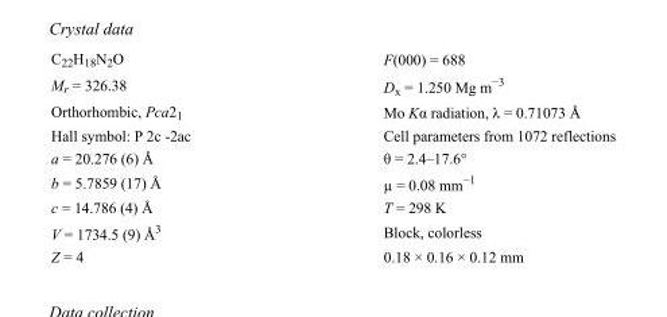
<table><tbody><tr><td>C<sub>22</sub>H<sub>18</sub>N<sub>2</sub>O</td><td>F(000) = 688</td></tr><tr><td>M<sub>r</sub> = 326.38</td><td>D<sub>x</sub> = 1.250 Mg m<sup>−3</sup></td></tr><tr><td>Orthorhombic, Pca2<sub>1</sub></td><td>Mo Kα radiation, λ = 0.71073 Å</td></tr><tr><td>Hall symbol: P 2c -2ac</td><td>Cell parameters from 1072 reflections</td></tr><tr><td>a = 20.276 (6) Å</td><td>θ = 2.4–17.6°</td></tr><tr><td>b = 5.7859 (17) Å</td><td>µ = 0.08 mm<sup>−1</sup></td></tr><tr><td>c = 14.786 (4) Å</td><td>T = 298 K</td></tr><tr><td>V = 1734.5 (9) Å<sup>3</sup></td><td>Block, colorless</td></tr><tr><td>Z = 4</td><td>0.18 × 0.16 × 0.12 mm</td></tr></tbody></table>